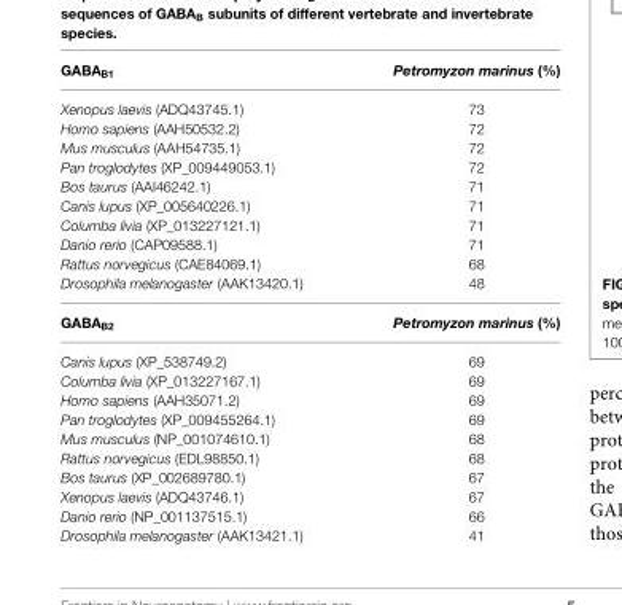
<table><thead><tr><td>GABA<sub>B1</sub></td><td>Petromyzon marinus (%)</td></tr></thead><tbody><tr><td>Xenopus laevis (ADQ43745.1)</td><td>73</td></tr><tr><td>Homo sapiens (AAH50532.2)</td><td>72</td></tr><tr><td>Mus musculus (AAH54735.1)</td><td>72</td></tr><tr><td>Pan troglodytes (XP_009449053.1)</td><td>72</td></tr><tr><td>Bos taurus (AAI46242.1)</td><td>71</td></tr><tr><td>Canis lupus (XP_005640226.1)</td><td>71</td></tr><tr><td>Columba livia (XP_013227121.1)</td><td>71</td></tr><tr><td>Danio rerio (CAP09588.1)</td><td>71</td></tr><tr><td>Rattus norvegicus (CAE84069.1)</td><td>68</td></tr><tr><td>Drosophila melanogaster (AAK13420.1)</td><td>48</td></tr><tr><td>GABA<sub>B2</sub></td><td>Petromyzon marinus (%)</td></tr><tr><td>Canis lupus (XP_538749.2)</td><td>69</td></tr><tr><td>Columba livia (XP_013227167.1)</td><td>69</td></tr><tr><td>Homo sapiens (AAH35071.2)</td><td>69</td></tr><tr><td>Pan troglodytes (XP_009455264.1)</td><td>69</td></tr><tr><td>Mus musculus (NP_001074610.1)</td><td>68</td></tr><tr><td>Rattus norvegicus (EDL98850.1)</td><td>68</td></tr><tr><td>Bos taurus (XP_002689780.1)</td><td>67</td></tr><tr><td>Xenopus laevis (ADQ43746.1)</td><td>67</td></tr><tr><td>Danio rerio (NP_001137515.1)</td><td>66</td></tr><tr><td>Drosophila melanogaster (AAK13421.1)</td><td>41</td></tr></tbody></table>